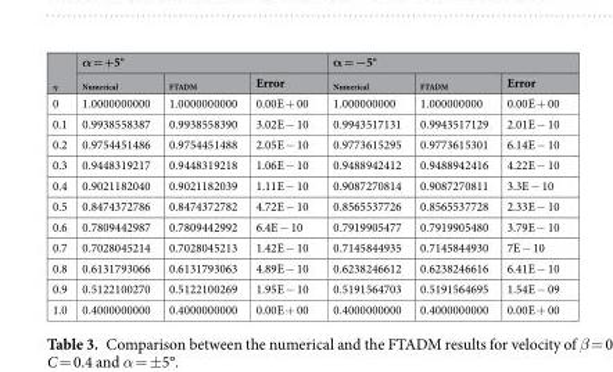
<table><thead><tr><td rowspan="2"><sub>η</sub></td><td colspan="3">α = +5°</td><td colspan="3">α = −5°</td></tr><tr><td><sub>Numerical</sub></td><td><sub>FTADM</sub></td><td>Error</td><td><sub>Numerical</sub></td><td><sub>FTADM</sub></td><td>Error</td></tr></thead><tbody><tr><td>0</td><td>1.0000000000</td><td>1.0000000000</td><td>0.00E + 00</td><td>1.000000000</td><td>1.000000000</td><td>0.00E + 00</td></tr><tr><td>0.1</td><td>0.9938558387</td><td>0.9938558390</td><td>3.02E − 10</td><td>0.9943517131</td><td>0.9943517129</td><td>2.01E − 10</td></tr><tr><td>0.2</td><td>0.9754451486</td><td>0.9754451488</td><td>2.05E − 10</td><td>0.9773615295</td><td>0.9773615301</td><td>6.14E − 10</td></tr><tr><td>0.3</td><td>0.9448319217</td><td>0.9448319218</td><td>1.06E − 10</td><td>0.9488942412</td><td>0.9488942416</td><td>4.22E − 10</td></tr><tr><td>0.4</td><td>0.9021182040</td><td>0.9021182039</td><td>1.11E − 10</td><td>0.9087270814</td><td>0.9087270811</td><td>3.3E − 10</td></tr><tr><td>0.5</td><td>0.8474372786</td><td>0.8474372782</td><td>4.72E − 10</td><td>0.8565537726</td><td>0.8565537728</td><td>2.33E − 10</td></tr><tr><td>0.6</td><td>0.7809442987</td><td>0.7809442992</td><td>6.4E − 10</td><td>0.7919905477</td><td>0.7919905480</td><td>3.79E − 10</td></tr><tr><td>0.7</td><td>0.7028045214</td><td>0.7028045213</td><td>1.42E − 10</td><td>0.7145844935</td><td>0.7145844930</td><td>7E − 10</td></tr><tr><td>0.8</td><td>0.6131793066</td><td>0.6131793063</td><td>4.89E − 10</td><td>0.6238246612</td><td>0.6238246616</td><td>6.41E − 10</td></tr><tr><td>0.9</td><td>0.5122100270</td><td>0.5122100269</td><td>1.95E − 10</td><td>0.5191564703</td><td>0.5191564695</td><td>1.54E − 09</td></tr><tr><td>1.0</td><td>0.4000000000</td><td>0.4000000000</td><td>0.00E + 00</td><td>0.4000000000</td><td>0.4000000000</td><td>0.00E + 00</td></tr></tbody></table>